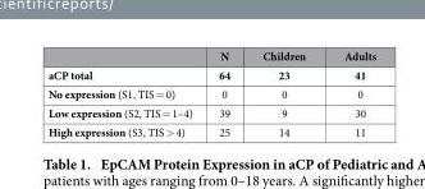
<table><thead><tr><td></td><td>N</td><td>Children</td><td>Adults</td></tr></thead><tbody><tr><td>aCP total</td><td>64</td><td>23</td><td>41</td></tr><tr><td>No expression (S1, TIS = 0)</td><td>0</td><td>0</td><td>0</td></tr><tr><td>Low expression (S2, TIS = 1–4)</td><td>39</td><td>9</td><td>30</td></tr><tr><td>High expression (S3, TIS &gt; 4)</td><td>25</td><td>14</td><td>11</td></tr></tbody></table>